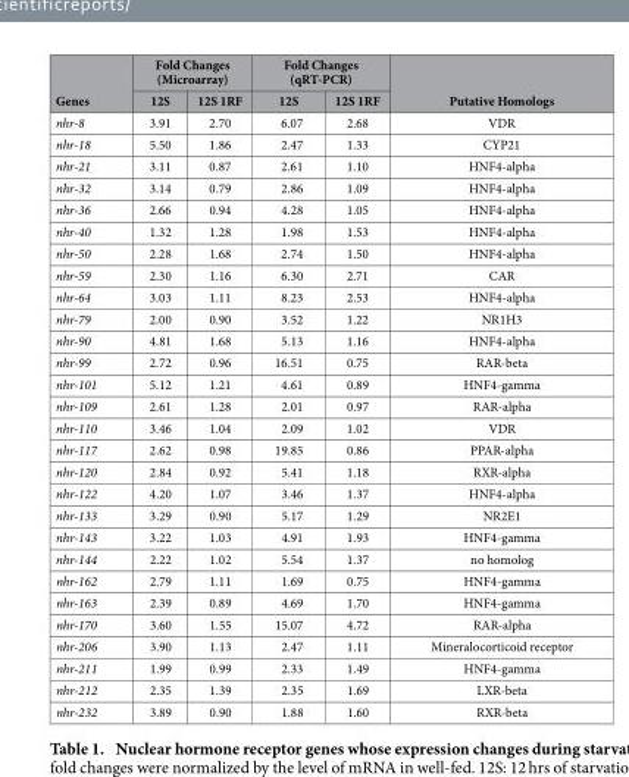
<table><thead><tr><td rowspan="2">Genes</td><td colspan="2">Fold Changes (Microarray)</td><td colspan="2">Fold Changes (qRT-PCR)</td><td rowspan="2">Putative Homologs</td></tr><tr><td>12S</td><td>12S 1RF</td><td>12S</td><td>12S 1RF</td></tr></thead><tbody><tr><td>nhr-8</td><td>3.91</td><td>2.70</td><td>6.07</td><td>2.68</td><td>VDR</td></tr><tr><td>nhr-18</td><td>5.50</td><td>1.86</td><td>2.47</td><td>1.33</td><td>CYP21</td></tr><tr><td>nhr-21</td><td>3.11</td><td>0.87</td><td>2.61</td><td>1.10</td><td>HNF4-alpha</td></tr><tr><td>nhr-32</td><td>3.14</td><td>0.79</td><td>2.86</td><td>1.09</td><td>HNF4-alpha</td></tr><tr><td>nhr-36</td><td>2.66</td><td>0.94</td><td>4.28</td><td>1.05</td><td>HNF4-alpha</td></tr><tr><td>nhr-40</td><td>1.32</td><td>1.28</td><td>1.98</td><td>1.53</td><td>HNF4-alpha</td></tr><tr><td>nhr-50</td><td>2.28</td><td>1.68</td><td>2.74</td><td>1.50</td><td>HNF4-alpha</td></tr><tr><td>nhr-59</td><td>2.30</td><td>1.16</td><td>6.30</td><td>2.71</td><td>CAR</td></tr><tr><td>nhr-64</td><td>3.03</td><td>1.11</td><td>8.23</td><td>2.53</td><td>HNF4-alpha</td></tr><tr><td>nhr-79</td><td>2.00</td><td>0.90</td><td>3.52</td><td>1.22</td><td>NR1H3</td></tr><tr><td>nhr-90</td><td>4.81</td><td>1.68</td><td>5.13</td><td>1.16</td><td>HNF4-alpha</td></tr><tr><td>nhr-99</td><td>2.72</td><td>0.96</td><td>16.51</td><td>0.75</td><td>RAR-beta</td></tr><tr><td>nhr-101</td><td>5.12</td><td>1.21</td><td>4.61</td><td>0.89</td><td>HNF4-gamma</td></tr><tr><td>nhr-109</td><td>2.61</td><td>1.28</td><td>2.01</td><td>0.97</td><td>RAR-alpha</td></tr><tr><td>nhr-110</td><td>3.46</td><td>1.04</td><td>2.09</td><td>1.02</td><td>VDR</td></tr><tr><td>nhr-117</td><td>2.62</td><td>0.98</td><td>19.85</td><td>0.86</td><td>PPAR-alpha</td></tr><tr><td>nhr-120</td><td>2.84</td><td>0.92</td><td>5.41</td><td>1.18</td><td>RXR-alpha</td></tr><tr><td>nhr-122</td><td>4.20</td><td>1.07</td><td>3.46</td><td>1.37</td><td>HNF4-alpha</td></tr><tr><td>nhr-133</td><td>3.29</td><td>0.90</td><td>5.17</td><td>1.29</td><td>NR2E1</td></tr><tr><td>nhr-143</td><td>3.22</td><td>1.03</td><td>4.91</td><td>1.93</td><td>HNF4-gamma</td></tr><tr><td>nhr-144</td><td>2.22</td><td>1.02</td><td>5.54</td><td>1.37</td><td>no homolog</td></tr><tr><td>nhr-162</td><td>2.79</td><td>1.11</td><td>1.69</td><td>0.75</td><td>HNF4-gamma</td></tr><tr><td>nhr-163</td><td>2.39</td><td>0.89</td><td>4.69</td><td>1.70</td><td>HNF4-gamma</td></tr><tr><td>nhr-170</td><td>3.60</td><td>1.55</td><td>15.07</td><td>4.72</td><td>RAR-alpha</td></tr><tr><td>nhr-206</td><td>3.90</td><td>1.13</td><td>2.47</td><td>1.11</td><td>Mineralocorticoid receptor</td></tr><tr><td>nhr-211</td><td>1.99</td><td>0.99</td><td>2.33</td><td>1.49</td><td>HNF4-gamma</td></tr><tr><td>nhr-212</td><td>2.35</td><td>1.39</td><td>2.35</td><td>1.69</td><td>LXR-beta</td></tr><tr><td>nhr-232</td><td>3.89</td><td>0.90</td><td>1.88</td><td>1.60</td><td>RXR-beta</td></tr></tbody></table>